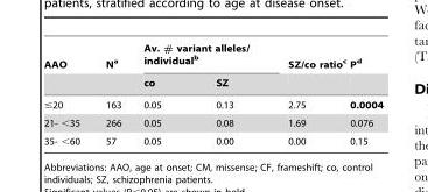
<table><thead><tr><td rowspan="2">AAO</td><td rowspan="2">N<sup>a</sup></td><td colspan="2">Av. # variant alleles/ individual<sup>b</sup></td><td rowspan="2">SZ/co ratio<sup>c</sup></td><td rowspan="2">P<sup>d</sup></td></tr><tr><td>co</td><td>SZ</td></tr></thead><tbody><tr><td>≤20</td><td>163</td><td>0.05</td><td>0.13</td><td>2.75</td><td>0.0004</td></tr><tr><td>21- &lt;35</td><td>266</td><td>0.05</td><td>0.08</td><td>1.69</td><td>0.076</td></tr><tr><td>35- &lt;60</td><td>57</td><td>0.05</td><td>0.00</td><td>0.00</td><td>0.15</td></tr></tbody></table>